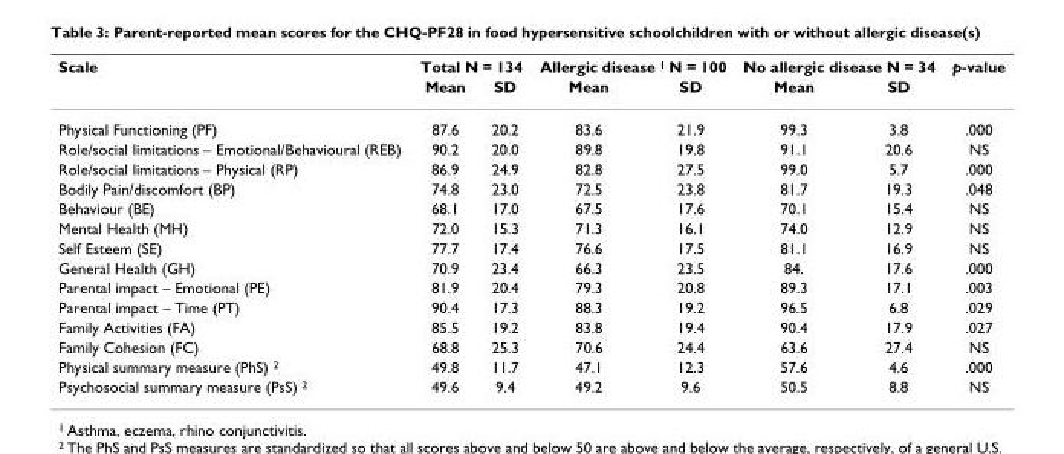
<table><thead><tr><td rowspan="2">Scale</td><td colspan="2">Total N = 134</td><td colspan="2">Allergic disease 1 N = 100</td><td colspan="2">No allergic disease N = 34</td><td rowspan="2">p-value</td></tr><tr><td>Mean</td><td>SD</td><td>Mean</td><td>SD</td><td>Mean</td><td>SD</td></tr></thead><tbody><tr><td>Physical Functioning (PF)</td><td>87.6</td><td>20.2</td><td>83.6</td><td>21.9</td><td>99.3</td><td>3.8</td><td>.000</td></tr><tr><td>Role/social limitations – Emotional/Behavioural (REB)</td><td>90.2</td><td>20.0</td><td>89.8</td><td>19.8</td><td>91.1</td><td>20.6</td><td>NS</td></tr><tr><td>Role/social limitations – Physical (RP)</td><td>86.9</td><td>24.9</td><td>82.8</td><td>27.5</td><td>99.0</td><td>5.7</td><td>.000</td></tr><tr><td>Bodily Pain/discomfort (BP)</td><td>74.8</td><td>23.0</td><td>72.5</td><td>23.8</td><td>81.7</td><td>19.3</td><td>.048</td></tr><tr><td>Behaviour (BE)</td><td>68.1</td><td>17.0</td><td>67.5</td><td>17.6</td><td>70.1</td><td>15.4</td><td>NS</td></tr><tr><td>Mental Health (MH)</td><td>72.0</td><td>15.3</td><td>71.3</td><td>16.1</td><td>74.0</td><td>12.9</td><td>NS</td></tr><tr><td>Self Esteem (SE)</td><td>77.7</td><td>17.4</td><td>76.6</td><td>17.5</td><td>81.1</td><td>16.9</td><td>NS</td></tr><tr><td>General Health (GH)</td><td>70.9</td><td>23.4</td><td>66.3</td><td>23.5</td><td>84.</td><td>17.6</td><td>.000</td></tr><tr><td>Parental impact – Emotional (PE)</td><td>81.9</td><td>20.4</td><td>79.3</td><td>20.8</td><td>89.3</td><td>17.1</td><td>.003</td></tr><tr><td>Parental impact – Time (PT)</td><td>90.4</td><td>17.3</td><td>88.3</td><td>19.2</td><td>96.5</td><td>6.8</td><td>.029</td></tr><tr><td>Family Activities (FA)</td><td>85.5</td><td>19.2</td><td>83.8</td><td>19.4</td><td>90.4</td><td>17.9</td><td>.027</td></tr><tr><td>Family Cohesion (FC)</td><td>68.8</td><td>25.3</td><td>70.6</td><td>24.4</td><td>63.6</td><td>27.4</td><td>NS</td></tr><tr><td>Physical summary measure (PhS) <sup>2</sup></td><td>49.8</td><td>11.7</td><td>47.1</td><td>12.3</td><td>57.6</td><td>4.6</td><td>.000</td></tr><tr><td>Psychosocial summary measure (PsS) <sup>2</sup></td><td>49.6</td><td>9.4</td><td>49.2</td><td>9.6</td><td>50.5</td><td>8.8</td><td>NS</td></tr></tbody></table>